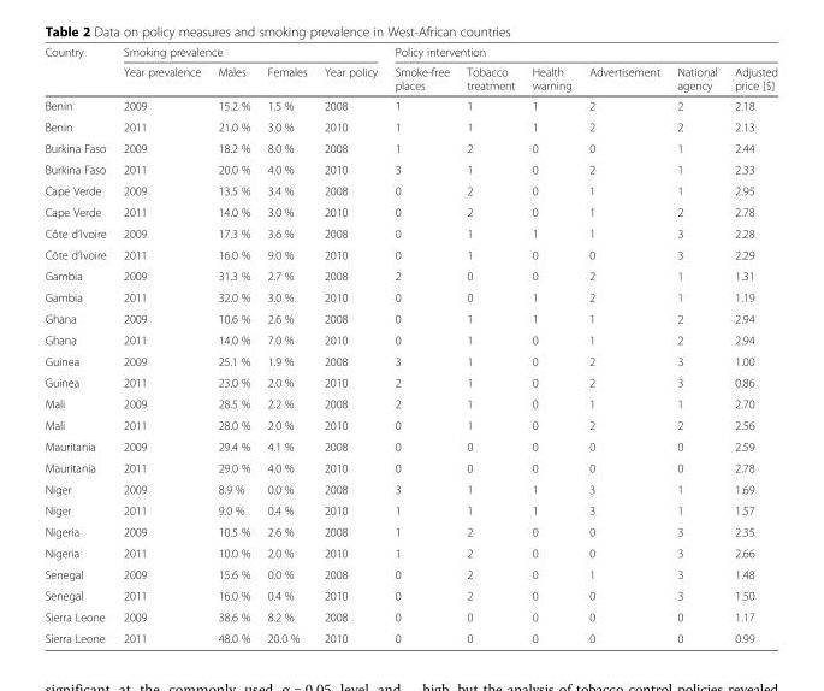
<table><thead><tr><td rowspan="2">Country</td><td colspan="4">Smoking prevalence</td><td colspan="6">Policy intervention</td></tr><tr><td>Year prevalence</td><td>Males</td><td>Females</td><td>Year policy</td><td>Smoke-free places</td><td>Tobacco treatment</td><td>Health warning</td><td>Advertisement</td><td>National agency</td><td>Adjusted price [$]</td></tr></thead><tbody><tr><td>Benin</td><td>2009</td><td>15.2 %</td><td>1.5 %</td><td>2008</td><td>1</td><td>1</td><td>1</td><td>2</td><td>2</td><td>2.18</td></tr><tr><td>Benin</td><td>2011</td><td>21.0 %</td><td>3.0 %</td><td>2010</td><td>1</td><td>1</td><td>1</td><td>2</td><td>2</td><td>2.13</td></tr><tr><td>Burkina Faso</td><td>2009</td><td>18.2 %</td><td>8.0 %</td><td>2008</td><td>1</td><td>2</td><td>0</td><td>0</td><td>1</td><td>2.44</td></tr><tr><td>Burkina Faso</td><td>2011</td><td>20.0 %</td><td>4.0 %</td><td>2010</td><td>3</td><td>1</td><td>0</td><td>2</td><td>1</td><td>2.33</td></tr><tr><td>Cape Verde</td><td>2009</td><td>13.5 %</td><td>3.4 %</td><td>2008</td><td>0</td><td>2</td><td>0</td><td>1</td><td>1</td><td>2.95</td></tr><tr><td>Cape Verde</td><td>2011</td><td>14.0 %</td><td>3.0 %</td><td>2010</td><td>0</td><td>2</td><td>0</td><td>1</td><td>2</td><td>2.78</td></tr><tr><td>Côte d’Ivoire</td><td>2009</td><td>17.3 %</td><td>3.6 %</td><td>2008</td><td>0</td><td>1</td><td>1</td><td>1</td><td>3</td><td>2.28</td></tr><tr><td>Côte d’Ivoire</td><td>2011</td><td>16.0 %</td><td>9.0 %</td><td>2010</td><td>0</td><td>1</td><td>0</td><td>0</td><td>3</td><td>2.29</td></tr><tr><td>Gambia</td><td>2009</td><td>31.3 %</td><td>2.7 %</td><td>2008</td><td>2</td><td>0</td><td>0</td><td>2</td><td>1</td><td>1.31</td></tr><tr><td>Gambia</td><td>2011</td><td>32.0 %</td><td>3.0 %</td><td>2010</td><td>0</td><td>0</td><td>1</td><td>2</td><td>1</td><td>1.19</td></tr><tr><td>Ghana</td><td>2009</td><td>10.6 %</td><td>2.6 %</td><td>2008</td><td>0</td><td>1</td><td>1</td><td>1</td><td>2</td><td>2.94</td></tr><tr><td>Ghana</td><td>2011</td><td>14.0 %</td><td>7.0 %</td><td>2010</td><td>0</td><td>1</td><td>0</td><td>1</td><td>2</td><td>2.94</td></tr><tr><td>Guinea</td><td>2009</td><td>25.1 %</td><td>1.9 %</td><td>2008</td><td>3</td><td>1</td><td>0</td><td>2</td><td>3</td><td>1.00</td></tr><tr><td>Guinea</td><td>2011</td><td>23.0 %</td><td>2.0 %</td><td>2010</td><td>2</td><td>1</td><td>0</td><td>2</td><td>3</td><td>0.86</td></tr><tr><td>Mali</td><td>2009</td><td>28.5 %</td><td>2.2 %</td><td>2008</td><td>2</td><td>1</td><td>0</td><td>1</td><td>1</td><td>2.70</td></tr><tr><td>Mali</td><td>2011</td><td>28.0 %</td><td>2.0 %</td><td>2010</td><td>0</td><td>1</td><td>0</td><td>2</td><td>2</td><td>2.56</td></tr><tr><td>Mauritania</td><td>2009</td><td>29.4 %</td><td>4.1 %</td><td>2008</td><td>0</td><td>0</td><td>0</td><td>0</td><td>0</td><td>2.59</td></tr><tr><td>Mauritania</td><td>2011</td><td>29.0 %</td><td>4.0 %</td><td>2010</td><td>0</td><td>0</td><td>0</td><td>0</td><td>0</td><td>2.78</td></tr><tr><td>Niger</td><td>2009</td><td>8.9 %</td><td>0.0 %</td><td>2008</td><td>3</td><td>1</td><td>1</td><td>3</td><td>1</td><td>1.69</td></tr><tr><td>Niger</td><td>2011</td><td>9.0 %</td><td>0.4 %</td><td>2010</td><td>1</td><td>1</td><td>1</td><td>3</td><td>1</td><td>1.57</td></tr><tr><td>Nigeria</td><td>2009</td><td>10.5 %</td><td>2.6 %</td><td>2008</td><td>1</td><td>2</td><td>0</td><td>0</td><td>3</td><td>2.35</td></tr><tr><td>Nigeria</td><td>2011</td><td>10.0 %</td><td>2.0 %</td><td>2010</td><td>1</td><td>2</td><td>0</td><td>0</td><td>3</td><td>2.66</td></tr><tr><td>Senegal</td><td>2009</td><td>15.6 %</td><td>0.0 %</td><td>2008</td><td>0</td><td>2</td><td>0</td><td>1</td><td>3</td><td>1.48</td></tr><tr><td>Senegal</td><td>2011</td><td>16.0 %</td><td>0.4 %</td><td>2010</td><td>0</td><td>2</td><td>0</td><td>0</td><td>3</td><td>1.50</td></tr><tr><td>Sierra Leone</td><td>2009</td><td>38.6 %</td><td>8.2 %</td><td>2008</td><td>0</td><td>0</td><td>0</td><td>0</td><td>0</td><td>1.17</td></tr><tr><td>Sierra Leone</td><td>2011</td><td>48.0 %</td><td>20.0 %</td><td>2010</td><td>0</td><td>0</td><td>0</td><td>0</td><td>0</td><td>0.99</td></tr></tbody></table>